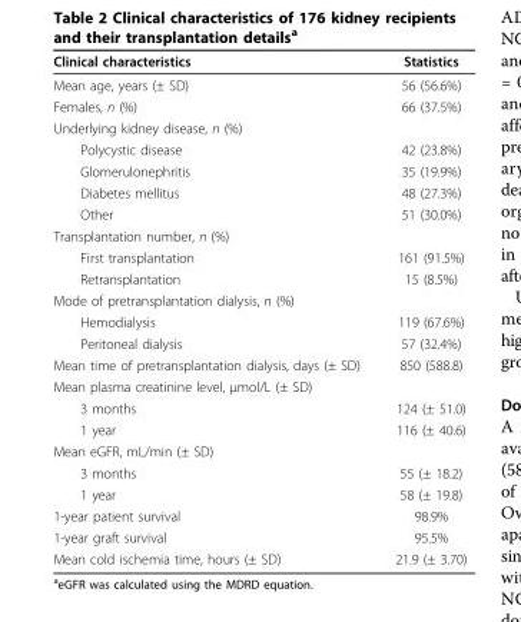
<table><thead><tr><td>Clinical characteristics</td><td>Statistics</td></tr></thead><tbody><tr><td>Mean age, years (± SD)</td><td>56 (56.6%)</td></tr><tr><td>Females, n (%)</td><td>66 (37.5%)</td></tr><tr><td colspan="2">Underlying kidney disease, n (%)</td></tr><tr><td>Polycystic disease</td><td>42 (23.8%)</td></tr><tr><td>Glomerulonephritis</td><td>35 (19.9%)</td></tr><tr><td>Diabetes mellitus</td><td>48 (27.3%)</td></tr><tr><td>Other</td><td>51 (30.0%)</td></tr><tr><td colspan="2">Transplantation number, n (%)</td></tr><tr><td>First transplantation</td><td>161 (91.5%)</td></tr><tr><td>Retransplantation</td><td>15 (8.5%)</td></tr><tr><td colspan="2">Mode of pretransplantation dialysis, n (%)</td></tr><tr><td>Hemodialysis</td><td>119 (67.6%)</td></tr><tr><td>Peritoneal dialysis</td><td>57 (32.4%)</td></tr><tr><td>Mean time of pretransplantation dialysis, days (± SD)</td><td>850 (588.8)</td></tr><tr><td colspan="2">Mean plasma creatinine level, μmol/L (± SD)</td></tr><tr><td>3 months</td><td>124 (± 51.0)</td></tr><tr><td>1 year</td><td>116 (± 40.6)</td></tr><tr><td colspan="2">Mean eGFR, mL/min (± SD)</td></tr><tr><td>3 months</td><td>55 (± 18.2)</td></tr><tr><td>1 year</td><td>58 (± 19.8)</td></tr><tr><td>1-year patient survival</td><td>98.9%</td></tr><tr><td>1-year graft survival</td><td>95.5%</td></tr><tr><td>Mean cold ischemia time, hours (± SD)</td><td>21.9 (± 3.70)</td></tr></tbody></table>